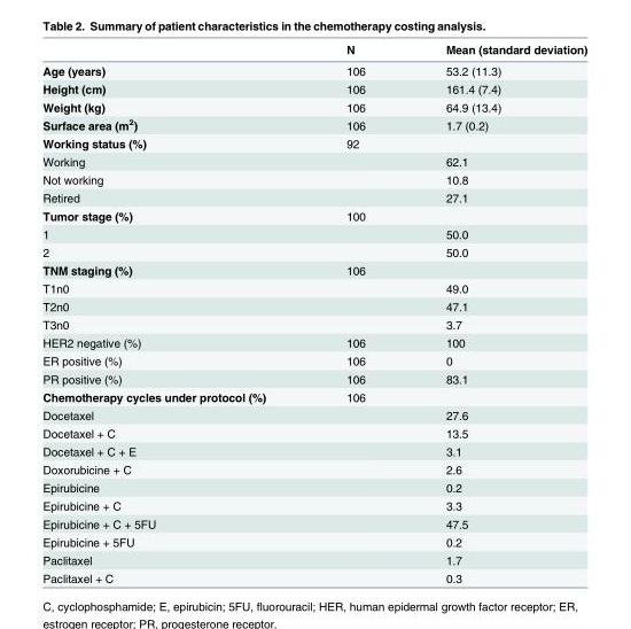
<table><thead><tr><td></td><td>N</td><td>Mean (standard deviation)</td></tr></thead><tbody><tr><td>Age (years)</td><td>106</td><td>53.2 (11.3)</td></tr><tr><td>Height (cm)</td><td>106</td><td>161.4 (7.4)</td></tr><tr><td>Weight (kg)</td><td>106</td><td>64.9 (13.4)</td></tr><tr><td>Surface area (m<sup>2</sup>)</td><td>106</td><td>1.7 (0.2)</td></tr><tr><td>Working status (%)</td><td>92</td><td></td></tr><tr><td>Working</td><td></td><td>62.1</td></tr><tr><td>Not working</td><td></td><td>10.8</td></tr><tr><td>Retired</td><td></td><td>27.1</td></tr><tr><td>Tumor stage (%)</td><td>100</td><td></td></tr><tr><td>1</td><td></td><td>50.0</td></tr><tr><td>2</td><td></td><td>50.0</td></tr><tr><td>TNM staging (%)</td><td>106</td><td></td></tr><tr><td>T1n0</td><td></td><td>49.0</td></tr><tr><td>T2n0</td><td></td><td>47.1</td></tr><tr><td>T3n0</td><td></td><td>3.7</td></tr><tr><td>HER2 negative (%)</td><td>106</td><td>100</td></tr><tr><td>ER positive (%)</td><td>106</td><td>0</td></tr><tr><td>PR positive (%)</td><td>106</td><td>83.1</td></tr><tr><td>Chemotherapy cycles under protocol (%)</td><td>106</td><td></td></tr><tr><td>Docetaxel</td><td></td><td>27.6</td></tr><tr><td>Docetaxel + C</td><td></td><td>13.5</td></tr><tr><td>Docetaxel + C + E</td><td></td><td>3.1</td></tr><tr><td>Doxorubicine + C</td><td></td><td>2.6</td></tr><tr><td>Epirubicine</td><td></td><td>0.2</td></tr><tr><td>Epirubicine + C</td><td></td><td>3.3</td></tr><tr><td>Epirubicine + C + 5FU</td><td></td><td>47.5</td></tr><tr><td>Epirubicine + 5FU</td><td></td><td>0.2</td></tr><tr><td>Paclitaxel</td><td></td><td>1.7</td></tr><tr><td>Paclitaxel + C</td><td></td><td>0.3</td></tr></tbody></table>